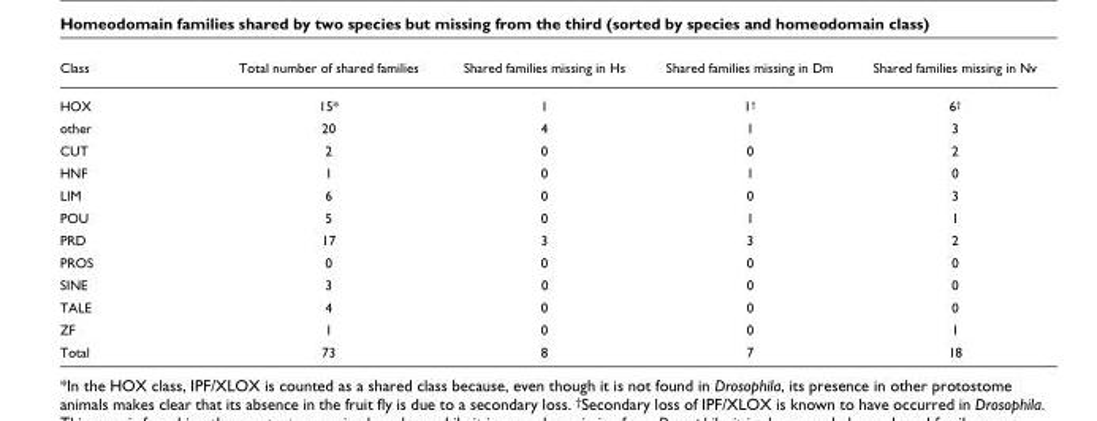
<table><thead><tr><td>Class</td><td>Total number of shared families</td><td>Shared families missing in Hs</td><td>Shared families missing in Dm</td><td>Shared families missing in Nv</td></tr></thead><tbody><tr><td>HOX</td><td>15*</td><td>1</td><td>1†</td><td>6†</td></tr><tr><td>other</td><td>20</td><td>4</td><td>1</td><td>3</td></tr><tr><td>CUT</td><td>2</td><td>0</td><td>0</td><td>2</td></tr><tr><td>HNF</td><td>1</td><td>0</td><td>1</td><td>0</td></tr><tr><td>LIM</td><td>6</td><td>0</td><td>0</td><td>3</td></tr><tr><td>POU</td><td>5</td><td>0</td><td>1</td><td>1</td></tr><tr><td>PRD</td><td>17</td><td>3</td><td>3</td><td>2</td></tr><tr><td>PROS</td><td>0</td><td>0</td><td>0</td><td>0</td></tr><tr><td>SINE</td><td>3</td><td>0</td><td>0</td><td>0</td></tr><tr><td>TALE</td><td>4</td><td>0</td><td>0</td><td>0</td></tr><tr><td>ZF</td><td>1</td><td>0</td><td>0</td><td>1</td></tr><tr><td>Total</td><td>73</td><td>8</td><td>7</td><td>18</td></tr></tbody></table>